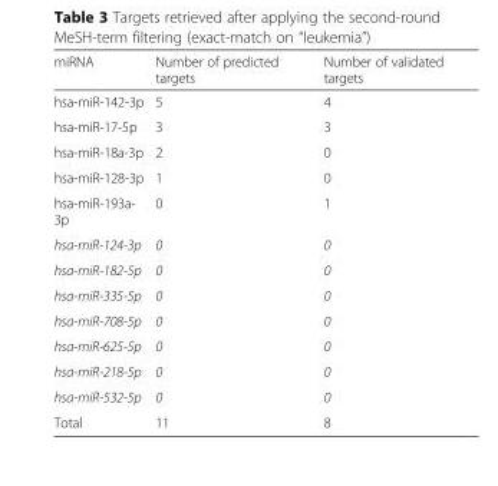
<table><thead><tr><td>miRNA</td><td>Number of predicted targets</td><td>Number of validated targets</td></tr></thead><tbody><tr><td>hsa-miR-142-3p</td><td>5</td><td>4</td></tr><tr><td>hsa-miR-17-5p</td><td>3</td><td>3</td></tr><tr><td>hsa-miR-18a-3p</td><td>2</td><td>0</td></tr><tr><td>hsa-miR-128-3p</td><td>1</td><td>0</td></tr><tr><td>hsa-miR-193a- 3p</td><td>0</td><td>1</td></tr><tr><td>hsa-miR-124-3p</td><td>0</td><td>0</td></tr><tr><td>hsa-miR-182-5p</td><td>0</td><td>0</td></tr><tr><td>hsa-miR-335-5p</td><td>0</td><td>0</td></tr><tr><td>hsa-miR-708-5p</td><td>0</td><td>0</td></tr><tr><td>hsa-miR-625-5p</td><td>0</td><td>0</td></tr><tr><td>hsa-miR-218-5p</td><td>0</td><td>0</td></tr><tr><td>hsa-miR-532-5p</td><td>0</td><td>0</td></tr><tr><td>Total</td><td>11</td><td>8</td></tr></tbody></table>